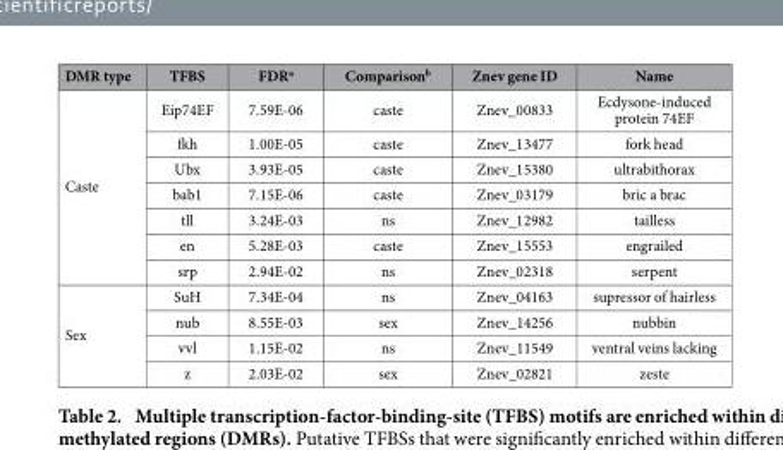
<table><thead><tr><td>DMR type</td><td>TFBS</td><td>FDR<sup>a</sup></td><td>Comparison<sup>b</sup></td><td>Znev gene ID</td><td>Name</td></tr></thead><tbody><tr><td rowspan="7">Caste</td><td>Eip74EF</td><td>7.59E-06</td><td>caste</td><td>Znev_00833</td><td>Ecdysone-induced protein 74EF</td></tr><tr><td>fkh</td><td>1.00E-05</td><td>caste</td><td>Znev_13477</td><td>fork head</td></tr><tr><td>Ubx</td><td>3.93E-05</td><td>caste</td><td>Znev_15380</td><td>ultrabithorax</td></tr><tr><td>bab1</td><td>7.15E-06</td><td>caste</td><td>Znev_03179</td><td>bric a brac</td></tr><tr><td>tll</td><td>3.24E-03</td><td>ns</td><td>Znev_12982</td><td>tailless</td></tr><tr><td>en</td><td>5.28E-03</td><td>caste</td><td>Znev_15553</td><td>engrailed</td></tr><tr><td>srp</td><td>2.94E-02</td><td>ns</td><td>Znev_02318</td><td>serpent</td></tr><tr><td rowspan="4">Sex</td><td>SuH</td><td>7.34E-04</td><td>ns</td><td>Znev_04163</td><td>supressor of hairless</td></tr><tr><td>nub</td><td>8.55E-03</td><td>sex</td><td>Znev_14256</td><td>nubbin</td></tr><tr><td>vvl</td><td>1.15E-02</td><td>ns</td><td>Znev_11549</td><td>ventral veins lacking</td></tr><tr><td>z</td><td>2.03E-02</td><td>sex</td><td>Znev_02821</td><td>zeste</td></tr></tbody></table>